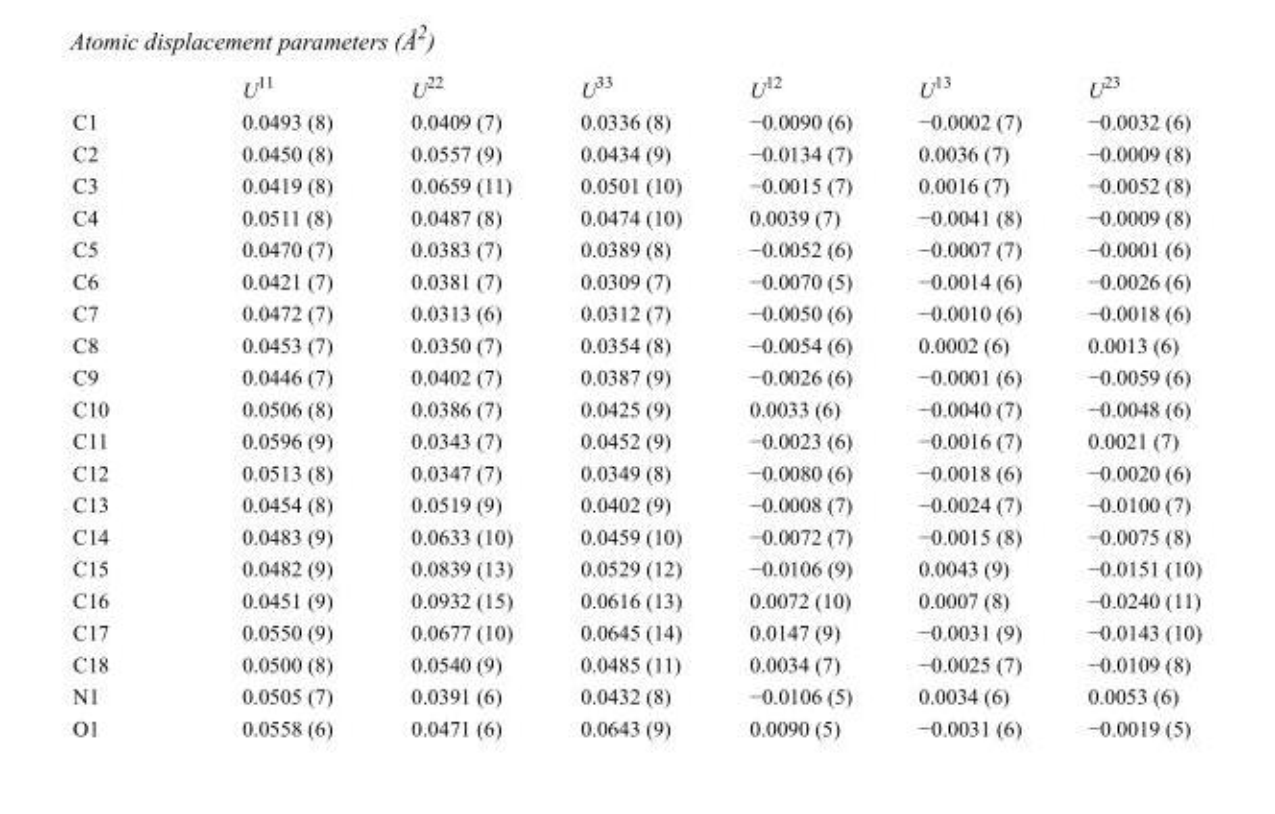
<table><thead><tr><td></td><td>U<sup>11</sup></td><td>U<sup>22</sup></td><td>U<sup>33</sup></td><td>U<sup>12</sup></td><td>U<sup>13</sup></td><td>U<sup>23</sup></td></tr></thead><tbody><tr><td>C1</td><td>0.0493 (8)</td><td>0.0409 (7)</td><td>0.0336 (8)</td><td>−0.0090 (6)</td><td>−0.0002 (7)</td><td>−0.0032 (6)</td></tr><tr><td>C2</td><td>0.0450 (8)</td><td>0.0557 (9)</td><td>0.0434 (9)</td><td>−0.0134 (7)</td><td>0.0036 (7)</td><td>−0.0009 (8)</td></tr><tr><td>C3</td><td>0.0419 (8)</td><td>0.0659 (11)</td><td>0.0501 (10)</td><td>−0.0015 (7)</td><td>0.0016 (7)</td><td>−0.0052 (8)</td></tr><tr><td>C4</td><td>0.0511 (8)</td><td>0.0487 (8)</td><td>0.0474 (10)</td><td>0.0039 (7)</td><td>−0.0041 (8)</td><td>−0.0009 (8)</td></tr><tr><td>C5</td><td>0.0470 (7)</td><td>0.0383 (7)</td><td>0.0389 (8)</td><td>−0.0052 (6)</td><td>−0.0007 (7)</td><td>−0.0001 (6)</td></tr><tr><td>C6</td><td>0.0421 (7)</td><td>0.0381 (7)</td><td>0.0309 (7)</td><td>−0.0070 (5)</td><td>−0.0014 (6)</td><td>−0.0026 (6)</td></tr><tr><td>C7</td><td>0.0472 (7)</td><td>0.0313 (6)</td><td>0.0312 (7)</td><td>−0.0050 (6)</td><td>−0.0010 (6)</td><td>−0.0018 (6)</td></tr><tr><td>C8</td><td>0.0453 (7)</td><td>0.0350 (7)</td><td>0.0354 (8)</td><td>−0.0054 (6)</td><td>0.0002 (6)</td><td>0.0013 (6)</td></tr><tr><td>C9</td><td>0.0446 (7)</td><td>0.0402 (7)</td><td>0.0387 (9)</td><td>−0.0026 (6)</td><td>−0.0001 (6)</td><td>−0.0059 (6)</td></tr><tr><td>C10</td><td>0.0506 (8)</td><td>0.0386 (7)</td><td>0.0425 (9)</td><td>0.0033 (6)</td><td>−0.0040 (7)</td><td>−0.0048 (6)</td></tr><tr><td>C11</td><td>0.0596 (9)</td><td>0.0343 (7)</td><td>0.0452 (9)</td><td>−0.0023 (6)</td><td>−0.0016 (7)</td><td>0.0021 (7)</td></tr><tr><td>C12</td><td>0.0513 (8)</td><td>0.0347 (7)</td><td>0.0349 (8)</td><td>−0.0080 (6)</td><td>−0.0018 (6)</td><td>−0.0020 (6)</td></tr><tr><td>C13</td><td>0.0454 (8)</td><td>0.0519 (9)</td><td>0.0402 (9)</td><td>−0.0008 (7)</td><td>−0.0024 (7)</td><td>−0.0100 (7)</td></tr><tr><td>C14</td><td>0.0483 (9)</td><td>0.0633 (10)</td><td>0.0459 (10)</td><td>−0.0072 (7)</td><td>−0.0015 (8)</td><td>−0.0075 (8)</td></tr><tr><td>C15</td><td>0.0482 (9)</td><td>0.0839 (13)</td><td>0.0529 (12)</td><td>−0.0106 (9)</td><td>0.0043 (9)</td><td>−0.0151 (10)</td></tr><tr><td>C16</td><td>0.0451 (9)</td><td>0.0932 (15)</td><td>0.0616 (13)</td><td>0.0072 (10)</td><td>0.0007 (8)</td><td>−0.0240 (11)</td></tr><tr><td>C17</td><td>0.0550 (9)</td><td>0.0677 (10)</td><td>0.0645 (14)</td><td>0.0147 (9)</td><td>−0.0031 (9)</td><td>−0.0143 (10)</td></tr><tr><td>C18</td><td>0.0500 (8)</td><td>0.0540 (9)</td><td>0.0485 (11)</td><td>0.0034 (7)</td><td>−0.0025 (7)</td><td>−0.0109 (8)</td></tr><tr><td>N1</td><td>0.0505 (7)</td><td>0.0391 (6)</td><td>0.0432 (8)</td><td>−0.0106 (5)</td><td>0.0034 (6)</td><td>0.0053 (6)</td></tr><tr><td>O1</td><td>0.0558 (6)</td><td>0.0471 (6)</td><td>0.0643 (9)</td><td>0.0090 (5)</td><td>−0.0031 (6)</td><td>−0.0019 (5)</td></tr></tbody></table>